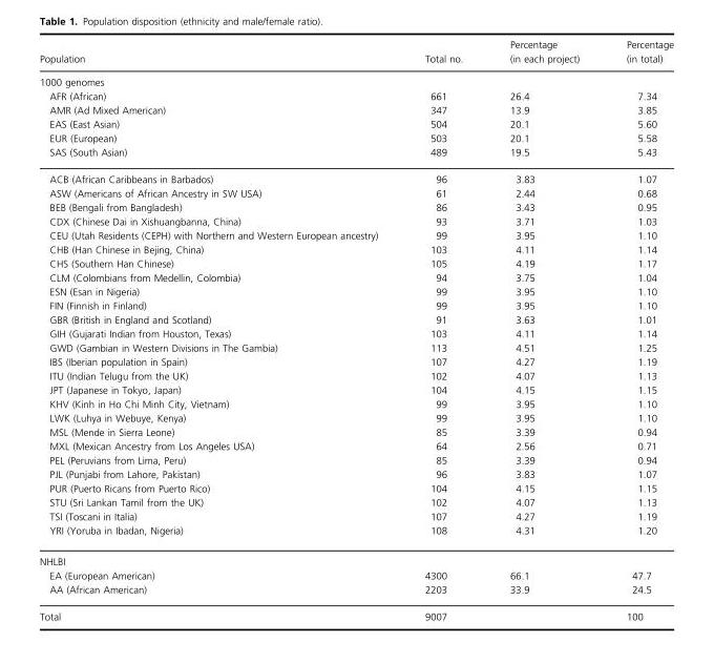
<table><thead><tr><td>Population</td><td>Total no.</td><td>Percentage (in each project)</td><td>Percentage (in total)</td></tr></thead><tbody><tr><td colspan="4">1000 genomes</td></tr><tr><td>AFR (African)</td><td>661</td><td>26.4</td><td>7.34</td></tr><tr><td>AMR (Ad Mixed American)</td><td>347</td><td>13.9</td><td>3.85</td></tr><tr><td>EAS (East Asian)</td><td>504</td><td>20.1</td><td>5.60</td></tr><tr><td>EUR (European)</td><td>503</td><td>20.1</td><td>5.58</td></tr><tr><td>SAS (South Asian)</td><td>489</td><td>19.5</td><td>5.43</td></tr><tr><td>ACB (African Caribbeans in Barbados)</td><td>96</td><td>3.83</td><td>1.07</td></tr><tr><td>ASW (Americans of African Ancestry in SW USA)</td><td>61</td><td>2.44</td><td>0.68</td></tr><tr><td>BEB (Bengali from Bangladesh)</td><td>86</td><td>3.43</td><td>0.95</td></tr><tr><td>CDX (Chinese Dai in Xishuangbanna, China)</td><td>93</td><td>3.71</td><td>1.03</td></tr><tr><td>CEU (Utah Residents (CEPH) with Northern and Western European ancestry)</td><td>99</td><td>3.95</td><td>1.10</td></tr><tr><td>CHB (Han Chinese in Bejing, China)</td><td>103</td><td>4.11</td><td>1.14</td></tr><tr><td>CHS (Southern Han Chinese)</td><td>105</td><td>4.19</td><td>1.17</td></tr><tr><td>CLM (Colombians from Medellin, Colombia)</td><td>94</td><td>3.75</td><td>1.04</td></tr><tr><td>ESN (Esan in Nigeria)</td><td>99</td><td>3.95</td><td>1.10</td></tr><tr><td>FIN (Finnish in Finland)</td><td>99</td><td>3.95</td><td>1.10</td></tr><tr><td>GBR (British in England and Scotland)</td><td>91</td><td>3.63</td><td>1.01</td></tr><tr><td>GIH (Gujarati Indian from Houston, Texas)</td><td>103</td><td>4.11</td><td>1.14</td></tr><tr><td>GWD (Gambian in Western Divisions in The Gambia)</td><td>113</td><td>4.51</td><td>1.25</td></tr><tr><td>IBS (Iberian population in Spain)</td><td>107</td><td>4.27</td><td>1.19</td></tr><tr><td>ITU (Indian Telugu from the UK)</td><td>102</td><td>4.07</td><td>1.13</td></tr><tr><td>JPT (Japanese in Tokyo, Japan)</td><td>104</td><td>4.15</td><td>1.15</td></tr><tr><td>KHV (Kinh in Ho Chi Minh City, Vietnam)</td><td>99</td><td>3.95</td><td>1.10</td></tr><tr><td>LWK (Luhya in Webuye, Kenya)</td><td>99</td><td>3.95</td><td>1.10</td></tr><tr><td>MSL (Mende in Sierra Leone)</td><td>85</td><td>3.39</td><td>0.94</td></tr><tr><td>MXL (Mexican Ancestry from Los Angeles USA)</td><td>64</td><td>2.56</td><td>0.71</td></tr><tr><td>PEL (Peruvians from Lima, Peru)</td><td>85</td><td>3.39</td><td>0.94</td></tr><tr><td>PJL (Punjabi from Lahore, Pakistan)</td><td>96</td><td>3.83</td><td>1.07</td></tr><tr><td>PUR (Puerto Ricans from Puerto Rico)</td><td>104</td><td>4.15</td><td>1.15</td></tr><tr><td>STU (Sri Lankan Tamil from the UK)</td><td>102</td><td>4.07</td><td>1.13</td></tr><tr><td>TSI (Toscani in Italia)</td><td>107</td><td>4.27</td><td>1.19</td></tr><tr><td>YRI (Yoruba in Ibadan, Nigeria)</td><td>108</td><td>4.31</td><td>1.20</td></tr><tr><td colspan="4">NHLBI</td></tr><tr><td>EA (European American)</td><td>4300</td><td>66.1</td><td>47.7</td></tr><tr><td>AA (African American)</td><td>2203</td><td>33.9</td><td>24.5</td></tr><tr><td>Total</td><td>9007</td><td></td><td>100</td></tr></tbody></table>